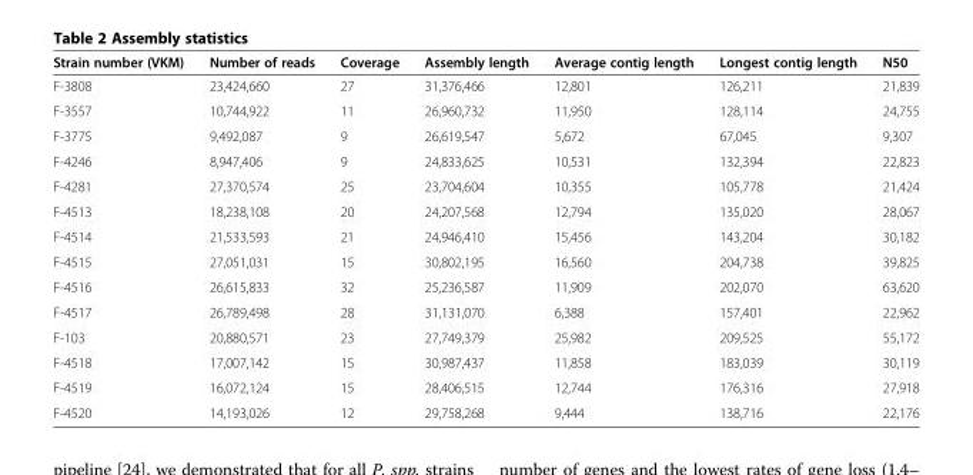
<table><thead><tr><td>Strain number (VKM)</td><td>Number of reads</td><td>Coverage</td><td>Assembly length</td><td>Average contig length</td><td>Longest contig length</td><td>N50</td></tr></thead><tbody><tr><td>F-3808</td><td>23,424,660</td><td>27</td><td>31,376,466</td><td>12,801</td><td>126,211</td><td>21,839</td></tr><tr><td>F-3557</td><td>10,744,922</td><td>11</td><td>26,960,732</td><td>11,950</td><td>128,114</td><td>24,755</td></tr><tr><td>F-3775</td><td>9,492,087</td><td>9</td><td>26,619,547</td><td>5,672</td><td>67,045</td><td>9,307</td></tr><tr><td>F-4246</td><td>8,947,406</td><td>9</td><td>24,833,625</td><td>10,531</td><td>132,394</td><td>22,823</td></tr><tr><td>F-4281</td><td>27,370,574</td><td>25</td><td>23,704,604</td><td>10,355</td><td>105,778</td><td>21,424</td></tr><tr><td>F-4513</td><td>18,238,108</td><td>20</td><td>24,207,568</td><td>12,794</td><td>135,020</td><td>28,067</td></tr><tr><td>F-4514</td><td>21,533,593</td><td>21</td><td>24,946,410</td><td>15,456</td><td>143,204</td><td>30,182</td></tr><tr><td>F-4515</td><td>27,051,031</td><td>15</td><td>30,802,195</td><td>16,560</td><td>204,738</td><td>39,825</td></tr><tr><td>F-4516</td><td>26,615,833</td><td>32</td><td>25,236,587</td><td>11,909</td><td>202,070</td><td>63,620</td></tr><tr><td>F-4517</td><td>26,789,498</td><td>28</td><td>31,131,070</td><td>6,388</td><td>157,401</td><td>22,962</td></tr><tr><td>F-103</td><td>20,880,571</td><td>23</td><td>27,749,379</td><td>25,982</td><td>209,525</td><td>55,172</td></tr><tr><td>F-4518</td><td>17,007,142</td><td>15</td><td>30,987,437</td><td>11,858</td><td>183,039</td><td>30,119</td></tr><tr><td>F-4519</td><td>16,072,124</td><td>15</td><td>28,406,515</td><td>12,744</td><td>176,316</td><td>27,918</td></tr><tr><td>F-4520</td><td>14,193,026</td><td>12</td><td>29,758,268</td><td>9,444</td><td>138,716</td><td>22,176</td></tr></tbody></table>